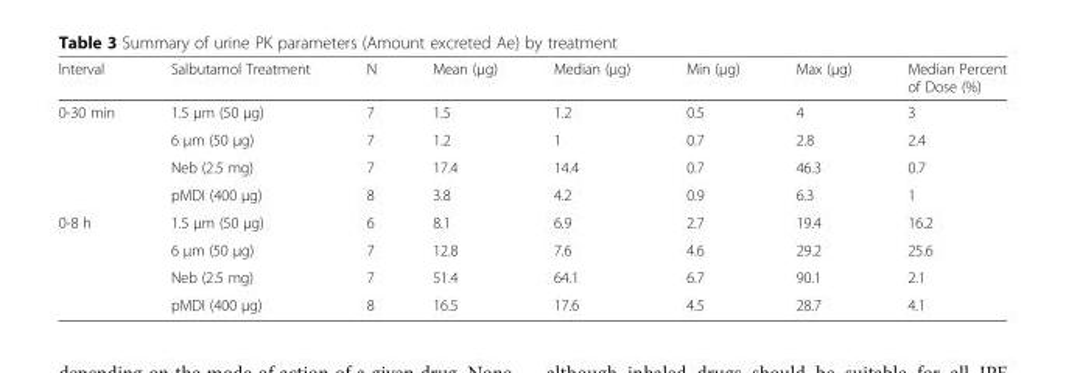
<table><thead><tr><td>Interval</td><td>Salbutamol Treatment</td><td>N</td><td>Mean (μg)</td><td>Median (μg)</td><td>Min (μg)</td><td>Max (μg)</td><td>Median Percent of Dose (%)</td></tr></thead><tbody><tr><td rowspan="4">0-30 min</td><td>1.5 μm (50 μg)</td><td>7</td><td>1.5</td><td>1.2</td><td>0.5</td><td>4</td><td>3</td></tr><tr><td>6 μm (50 μg)</td><td>7</td><td>1.2</td><td>1</td><td>0.7</td><td>2.8</td><td>2.4</td></tr><tr><td>Neb (2.5 mg)</td><td>7</td><td>17.4</td><td>14.4</td><td>0.7</td><td>46.3</td><td>0.7</td></tr><tr><td>pMDI (400 μg)</td><td>8</td><td>3.8</td><td>4.2</td><td>0.9</td><td>6.3</td><td>1</td></tr><tr><td rowspan="4">0-8 h</td><td>1.5 μm (50 μg)</td><td>6</td><td>8.1</td><td>6.9</td><td>2.7</td><td>19.4</td><td>16.2</td></tr><tr><td>6 μm (50 μg)</td><td>7</td><td>12.8</td><td>7.6</td><td>4.6</td><td>29.2</td><td>25.6</td></tr><tr><td>Neb (2.5 mg)</td><td>7</td><td>51.4</td><td>64.1</td><td>6.7</td><td>90.1</td><td>2.1</td></tr><tr><td>pMDI (400 μg)</td><td>8</td><td>16.5</td><td>17.6</td><td>4.5</td><td>28.7</td><td>4.1</td></tr></tbody></table>